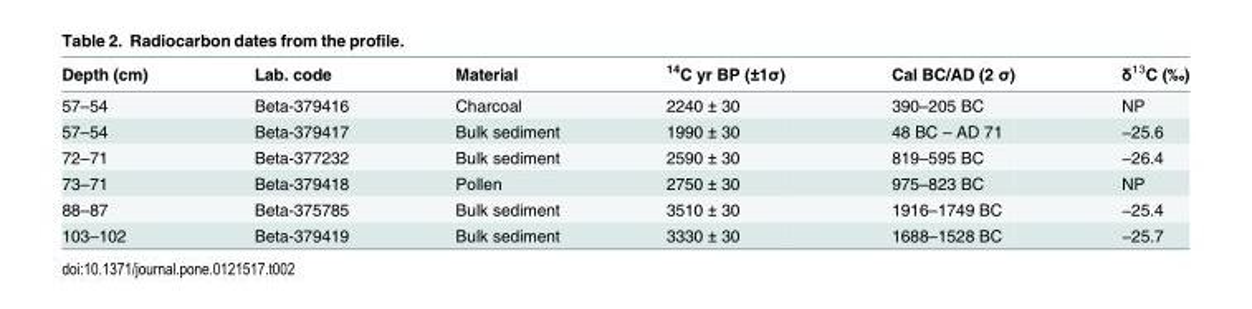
<table><thead><tr><td>Depth (cm)</td><td>Lab. code</td><td>Material</td><td><sup>14</sup>C yr BP (±1σ)</td><td>Cal BC/AD (2 σ)</td><td>δ<sup>13</sup>C (‰)</td></tr></thead><tbody><tr><td>57–54</td><td>Beta-379416</td><td>Charcoal</td><td>2240 ± 30</td><td>390–205 BC</td><td>NP</td></tr><tr><td>57–54</td><td>Beta-379417</td><td>Bulk sediment</td><td>1990 ± 30</td><td>48 BC – AD 71</td><td>−25.6</td></tr><tr><td>72–71</td><td>Beta-377232</td><td>Bulk sediment</td><td>2590 ± 30</td><td>819–595 BC</td><td>−26.4</td></tr><tr><td>73–71</td><td>Beta-379418</td><td>Pollen</td><td>2750 ± 30</td><td>975–823 BC</td><td>NP</td></tr><tr><td>88–87</td><td>Beta-375785</td><td>Bulk sediment</td><td>3510 ± 30</td><td>1916–1749 BC</td><td>−25.4</td></tr><tr><td>103–102</td><td>Beta-379419</td><td>Bulk sediment</td><td>3330 ± 30</td><td>1688–1528 BC</td><td>−25.7</td></tr></tbody></table>